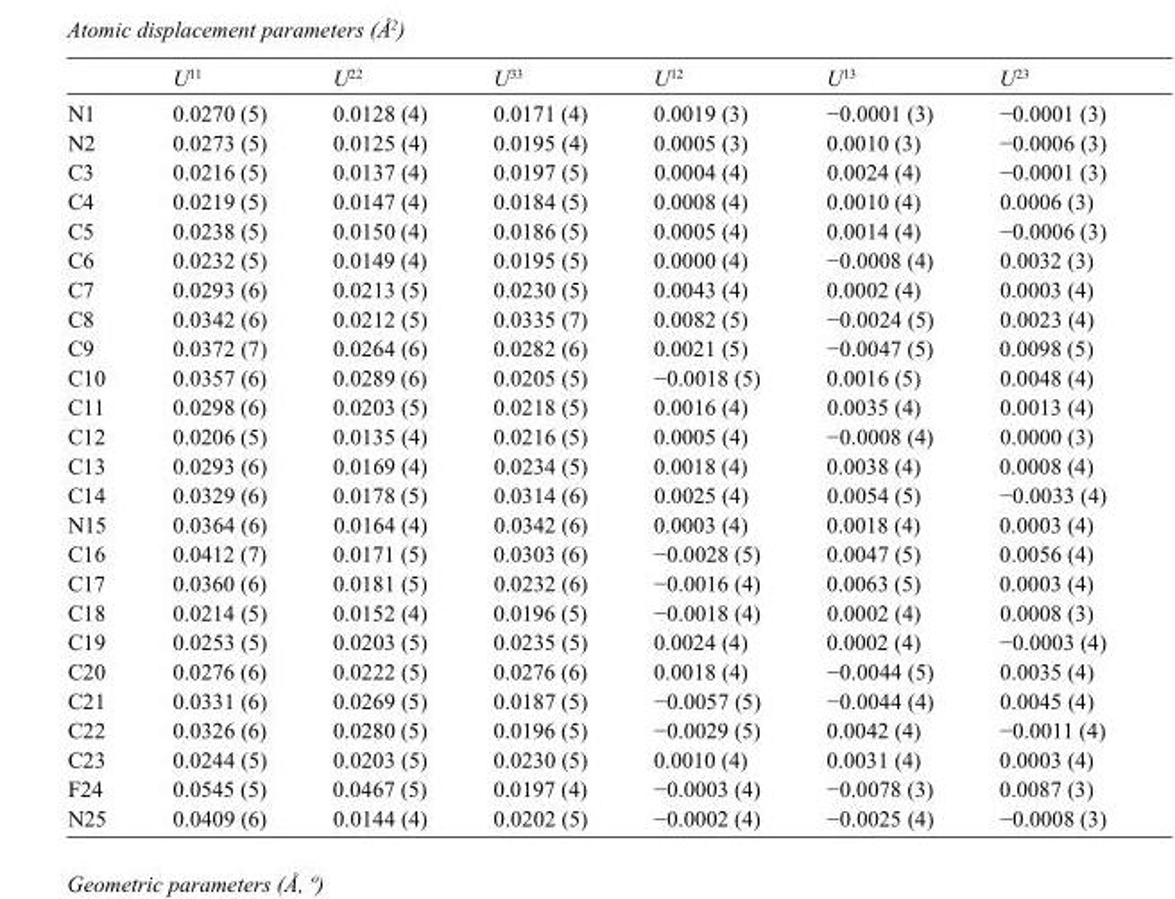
<table><thead><tr><td></td><td>U<sup>11</sup></td><td>U<sup>22</sup></td><td>U<sup>33</sup></td><td>U<sup>12</sup></td><td>U<sup>13</sup></td><td>U<sup>23</sup></td></tr></thead><tbody><tr><td>N1</td><td>0.0270 (5)</td><td>0.0128 (4)</td><td>0.0171 (4)</td><td>0.0019 (3)</td><td>−0.0001 (3)</td><td>−0.0001 (3)</td></tr><tr><td>N2</td><td>0.0273 (5)</td><td>0.0125 (4)</td><td>0.0195 (4)</td><td>0.0005 (3)</td><td>0.0010 (3)</td><td>−0.0006 (3)</td></tr><tr><td>C3</td><td>0.0216 (5)</td><td>0.0137 (4)</td><td>0.0197 (5)</td><td>0.0004 (4)</td><td>0.0024 (4)</td><td>−0.0001 (3)</td></tr><tr><td>C4</td><td>0.0219 (5)</td><td>0.0147 (4)</td><td>0.0184 (5)</td><td>0.0008 (4)</td><td>0.0010 (4)</td><td>0.0006 (3)</td></tr><tr><td>C5</td><td>0.0238 (5)</td><td>0.0150 (4)</td><td>0.0186 (5)</td><td>0.0005 (4)</td><td>0.0014 (4)</td><td>−0.0006 (3)</td></tr><tr><td>C6</td><td>0.0232 (5)</td><td>0.0149 (4)</td><td>0.0195 (5)</td><td>0.0000 (4)</td><td>−0.0008 (4)</td><td>0.0032 (3)</td></tr><tr><td>C7</td><td>0.0293 (6)</td><td>0.0213 (5)</td><td>0.0230 (5)</td><td>0.0043 (4)</td><td>0.0002 (4)</td><td>0.0003 (4)</td></tr><tr><td>C8</td><td>0.0342 (6)</td><td>0.0212 (5)</td><td>0.0335 (7)</td><td>0.0082 (5)</td><td>−0.0024 (5)</td><td>0.0023 (4)</td></tr><tr><td>C9</td><td>0.0372 (7)</td><td>0.0264 (6)</td><td>0.0282 (6)</td><td>0.0021 (5)</td><td>−0.0047 (5)</td><td>0.0098 (5)</td></tr><tr><td>C10</td><td>0.0357 (6)</td><td>0.0289 (6)</td><td>0.0205 (5)</td><td>−0.0018 (5)</td><td>0.0016 (5)</td><td>0.0048 (4)</td></tr><tr><td>C11</td><td>0.0298 (6)</td><td>0.0203 (5)</td><td>0.0218 (5)</td><td>0.0016 (4)</td><td>0.0035 (4)</td><td>0.0013 (4)</td></tr><tr><td>C12</td><td>0.0206 (5)</td><td>0.0135 (4)</td><td>0.0216 (5)</td><td>0.0005 (4)</td><td>−0.0008 (4)</td><td>0.0000 (3)</td></tr><tr><td>C13</td><td>0.0293 (6)</td><td>0.0169 (4)</td><td>0.0234 (5)</td><td>0.0018 (4)</td><td>0.0038 (4)</td><td>0.0008 (4)</td></tr><tr><td>C14</td><td>0.0329 (6)</td><td>0.0178 (5)</td><td>0.0314 (6)</td><td>0.0025 (4)</td><td>0.0054 (5)</td><td>−0.0033 (4)</td></tr><tr><td>N15</td><td>0.0364 (6)</td><td>0.0164 (4)</td><td>0.0342 (6)</td><td>0.0003 (4)</td><td>0.0018 (4)</td><td>0.0003 (4)</td></tr><tr><td>C16</td><td>0.0412 (7)</td><td>0.0171 (5)</td><td>0.0303 (6)</td><td>−0.0028 (5)</td><td>0.0047 (5)</td><td>0.0056 (4)</td></tr><tr><td>C17</td><td>0.0360 (6)</td><td>0.0181 (5)</td><td>0.0232 (6)</td><td>−0.0016 (4)</td><td>0.0063 (5)</td><td>0.0003 (4)</td></tr><tr><td>C18</td><td>0.0214 (5)</td><td>0.0152 (4)</td><td>0.0196 (5)</td><td>−0.0018 (4)</td><td>0.0002 (4)</td><td>0.0008 (3)</td></tr><tr><td>C19</td><td>0.0253 (5)</td><td>0.0203 (5)</td><td>0.0235 (5)</td><td>0.0024 (4)</td><td>0.0002 (4)</td><td>−0.0003 (4)</td></tr><tr><td>C20</td><td>0.0276 (6)</td><td>0.0222 (5)</td><td>0.0276 (6)</td><td>0.0018 (4)</td><td>−0.0044 (5)</td><td>0.0035 (4)</td></tr><tr><td>C21</td><td>0.0331 (6)</td><td>0.0269 (5)</td><td>0.0187 (5)</td><td>−0.0057 (5)</td><td>−0.0044 (4)</td><td>0.0045 (4)</td></tr><tr><td>C22</td><td>0.0326 (6)</td><td>0.0280 (5)</td><td>0.0196 (5)</td><td>−0.0029 (5)</td><td>0.0042 (4)</td><td>−0.0011 (4)</td></tr><tr><td>C23</td><td>0.0244 (5)</td><td>0.0203 (5)</td><td>0.0230 (5)</td><td>0.0010 (4)</td><td>0.0031 (4)</td><td>0.0003 (4)</td></tr><tr><td>F24</td><td>0.0545 (5)</td><td>0.0467 (5)</td><td>0.0197 (4)</td><td>−0.0003 (4)</td><td>−0.0078 (3)</td><td>0.0087 (3)</td></tr><tr><td>N25</td><td>0.0409 (6)</td><td>0.0144 (4)</td><td>0.0202 (5)</td><td>−0.0002 (4)</td><td>−0.0025 (4)</td><td>−0.0008 (3)</td></tr></tbody></table>